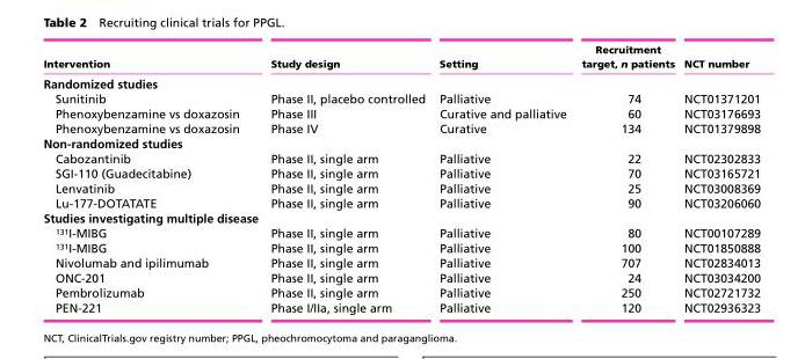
<table><thead><tr><td>Intervention</td><td>Study design</td><td>Setting</td><td>Recruitment target, n patients</td><td>NCT number</td></tr></thead><tbody><tr><td colspan="5">Randomized studies</td></tr><tr><td>Sunitinib</td><td>Phase II, placebo controlled</td><td>Palliative</td><td>74</td><td>NCT01371201</td></tr><tr><td>Phenoxybenzamine vs doxazosin</td><td>Phase III</td><td>Curative and palliative</td><td>60</td><td>NCT03176693</td></tr><tr><td>Phenoxybenzamine vs doxazosin</td><td>Phase IV</td><td>Curative</td><td>134</td><td>NCT01379898</td></tr><tr><td colspan="5">Non-randomized studies</td></tr><tr><td>Cabozantinib</td><td>Phase II, single arm</td><td>Palliative</td><td>22</td><td>NCT02302833</td></tr><tr><td>SGI-110 (Guadecitabine)</td><td>Phase II, single arm</td><td>Palliative</td><td>70</td><td>NCT03165721</td></tr><tr><td>Lenvatinib</td><td>Phase II, single arm</td><td>Palliative</td><td>25</td><td>NCT03008369</td></tr><tr><td>Lu-177-DOTATATE</td><td>Phase II, single arm</td><td>Palliative</td><td>90</td><td>NCT03206060</td></tr><tr><td colspan="5">Studies investigating multiple disease</td></tr><tr><td><sup>131</sup>I-MIBG</td><td>Phase II, single arm</td><td>Palliative</td><td>80</td><td>NCT00107289</td></tr><tr><td><sup>131</sup>I-MIBG</td><td>Phase II, single arm</td><td>Palliative</td><td>100</td><td>NCT01850888</td></tr><tr><td>Nivolumab and ipilimumab</td><td>Phase II, single arm</td><td>Palliative</td><td>707</td><td>NCT02834013</td></tr><tr><td>ONC-201</td><td>Phase II, single arm</td><td>Palliative</td><td>24</td><td>NCT03034200</td></tr><tr><td>Pembrolizumab</td><td>Phase II, single arm</td><td>Palliative</td><td>250</td><td>NCT02721732</td></tr><tr><td>PEN-221</td><td>Phase I/IIa, single arm</td><td>Palliative</td><td>120</td><td>NCT02936323</td></tr></tbody></table>